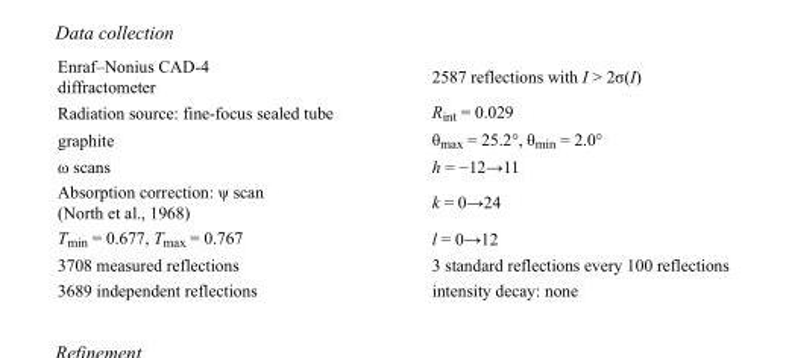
<table><tbody><tr><td>Enraf–Nonius CAD-4 diffractometer</td><td>2587 reflections with I &gt; 2σ(I)</td></tr><tr><td>Radiation source: fine-focus sealed tube</td><td>R<sub>int</sub> = 0.029</td></tr><tr><td>graphite</td><td>θ<sub>max</sub> = 25.2°, θ<sub>min</sub> = 2.0°</td></tr><tr><td>ω scans</td><td>h = −12→11</td></tr><tr><td>Absorption correction: ψ scan (North et al., 1968)</td><td>k = 0→24</td></tr><tr><td>T<sub>min</sub> = 0.677, T<sub>max</sub> = 0.767</td><td>l = 0→12</td></tr><tr><td>3708 measured reflections</td><td>3 standard reflections every 100 reflections</td></tr><tr><td>3689 independent reflections</td><td>intensity decay: none</td></tr></tbody></table>